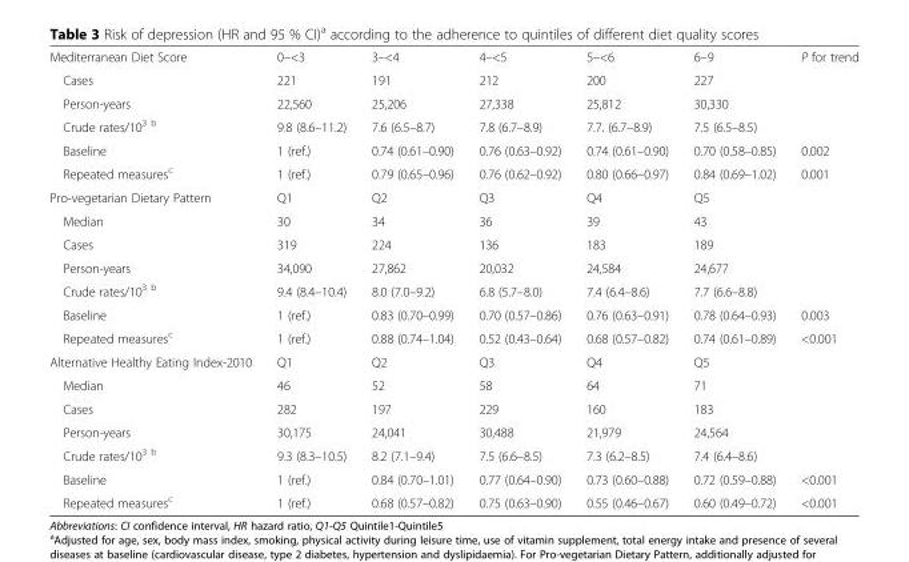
<table><tbody><tr><td>Mediterranean Diet Score</td><td>0–&lt;3</td><td>3–&lt;4</td><td>4–&lt;5</td><td>5–&lt;6</td><td>6–9</td><td>P for trend</td></tr><tr><td>Cases</td><td>221</td><td>191</td><td>212</td><td>200</td><td>227</td><td></td></tr><tr><td>Person-years</td><td>22,560</td><td>25,206</td><td>27,338</td><td>25,812</td><td>30,330</td><td></td></tr><tr><td>Crude rates/10<sup>3 b</sup></td><td>9.8 (8.6–11.2)</td><td>7.6 (6.5–8.7)</td><td>7.8 (6.7–8.9)</td><td>7.7. (6.7–8.9)</td><td>7.5 (6.5–8.5)</td><td></td></tr><tr><td>Baseline</td><td>1 (ref.)</td><td>0.74 (0.61–0.90)</td><td>0.76 (0.63–0.92)</td><td>0.74 (0.61–0.90)</td><td>0.70 (0.58–0.85)</td><td>0.002</td></tr><tr><td>Repeated measures<sup>c</sup></td><td>1 (ref.)</td><td>0.79 (0.65–0.96)</td><td>0.76 (0.62–0.92)</td><td>0.80 (0.66–0.97)</td><td>0.84 (0.69–1.02)</td><td>0.001</td></tr><tr><td>Pro-vegetarian Dietary Pattern</td><td>Q1</td><td>Q2</td><td>Q3</td><td>Q4</td><td>Q5</td><td></td></tr><tr><td>Median</td><td>30</td><td>34</td><td>36</td><td>39</td><td>43</td><td></td></tr><tr><td>Cases</td><td>319</td><td>224</td><td>136</td><td>183</td><td>189</td><td></td></tr><tr><td>Person-years</td><td>34,090</td><td>27,862</td><td>20,032</td><td>24,584</td><td>24,677</td><td></td></tr><tr><td>Crude rates/10<sup>3 b</sup></td><td>9.4 (8.4–10.4)</td><td>8.0 (7.0–9.2)</td><td>6.8 (5.7–8.0)</td><td>7.4 (6.4–8.6)</td><td>7.7 (6.6–8.8)</td><td></td></tr><tr><td>Baseline</td><td>1 (ref.)</td><td>0.83 (0.70–0.99)</td><td>0.70 (0.57–0.86)</td><td>0.76 (0.63–0.91)</td><td>0.78 (0.64–0.93)</td><td>0.003</td></tr><tr><td>Repeated measures<sup>c</sup></td><td>1 (ref.)</td><td>0.88 (0.74–1.04)</td><td>0.52 (0.43–0.64)</td><td>0.68 (0.57–0.82)</td><td>0.74 (0.61–0.89)</td><td>&lt;0.001</td></tr><tr><td>Alternative Healthy Eating Index-2010</td><td>Q1</td><td>Q2</td><td>Q3</td><td>Q4</td><td>Q5</td><td></td></tr><tr><td>Median</td><td>46</td><td>52</td><td>58</td><td>64</td><td>71</td><td></td></tr><tr><td>Cases</td><td>282</td><td>197</td><td>229</td><td>160</td><td>183</td><td></td></tr><tr><td>Person-years</td><td>30,175</td><td>24,041</td><td>30,488</td><td>21,979</td><td>24,564</td><td></td></tr><tr><td>Crude rates/10<sup>3 b</sup></td><td>9.3 (8.3–10.5)</td><td>8.2 (7.1–9.4)</td><td>7.5 (6.6–8.5)</td><td>7.3 (6.2–8.5)</td><td>7.4 (6.4–8.6)</td><td></td></tr><tr><td>Baseline</td><td>1 (ref.)</td><td>0.84 (0.70–1.01)</td><td>0.77 (0.64–0.90)</td><td>0.73 (0.60–0.88)</td><td>0.72 (0.59–0.88)</td><td>&lt;0.001</td></tr><tr><td>Repeated measures<sup>c</sup></td><td>1 (ref.)</td><td>0.68 (0.57–0.82)</td><td>0.75 (0.63–0.90)</td><td>0.55 (0.46–0.67)</td><td>0.60 (0.49–0.72)</td><td>&lt;0.001</td></tr></tbody></table>